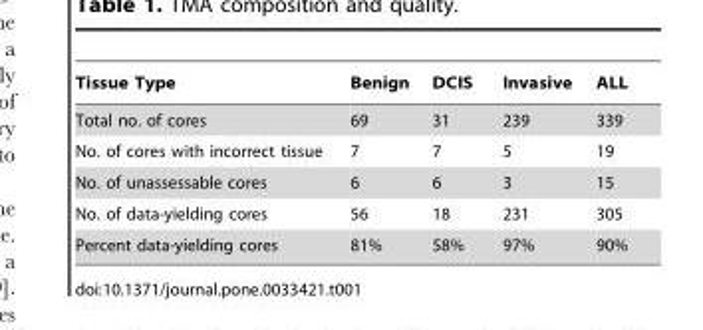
<table><thead><tr><td>Tissue Type</td><td>Benign</td><td>DCIS</td><td>Invasive</td><td>ALL</td></tr></thead><tbody><tr><td>Total no. of cores</td><td>69</td><td>31</td><td>239</td><td>339</td></tr><tr><td>No. of cores with incorrect tissue</td><td>7</td><td>7</td><td>5</td><td>19</td></tr><tr><td>No. of unassessable cores</td><td>6</td><td>6</td><td>3</td><td>15</td></tr><tr><td>No. of data-yielding cores</td><td>56</td><td>18</td><td>231</td><td>305</td></tr><tr><td>Percent data-yielding cores</td><td>81%</td><td>58%</td><td>97%</td><td>90%</td></tr></tbody></table>